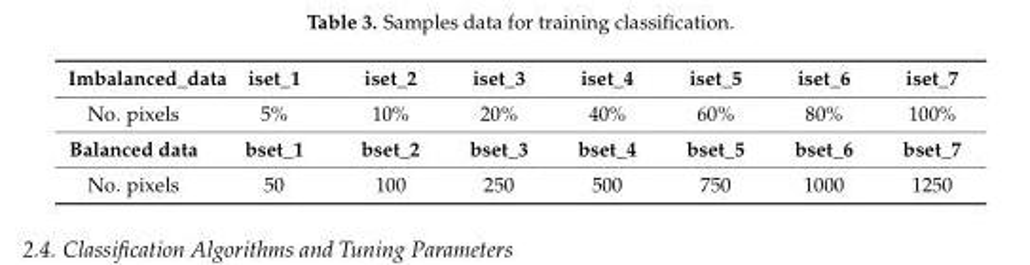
<table><thead><tr><td>Imbalanced_data</td><td>iset_1</td><td>iset_2</td><td>iset_3</td><td>iset_4</td><td>iset_5</td><td>iset_6</td><td>iset_7</td></tr></thead><tbody><tr><td>No. pixels</td><td>5%</td><td>10%</td><td>20%</td><td>40%</td><td>60%</td><td>80%</td><td>100%</td></tr><tr><td>Balanced data</td><td>bset_1</td><td>bset_2</td><td>bset_3</td><td>bset_4</td><td>bset_5</td><td>bset_6</td><td>bset_7</td></tr><tr><td>No. pixels</td><td>50</td><td>100</td><td>250</td><td>500</td><td>750</td><td>1000</td><td>1250</td></tr></tbody></table>